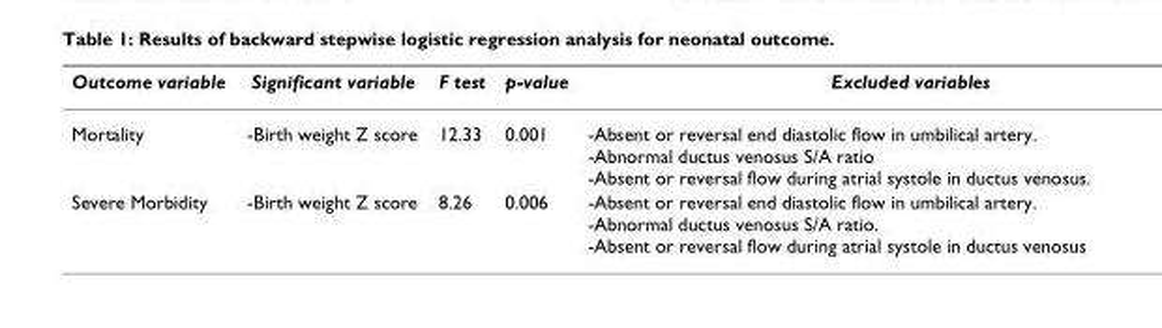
<table><thead><tr><td>Outcome variable</td><td>Significant variable</td><td>F test</td><td>p-value</td><td>Excluded variables</td></tr></thead><tbody><tr><td>Mortality</td><td>-Birth weight Z score</td><td>12.33</td><td>0.001</td><td>-Absent or reversal end diastolic flow in umbilical artery. -Abnormal ductus venosus S/A ratio -Absent or reversal flow during atrial systole in ductus venosus.</td></tr><tr><td>Severe Morbidity</td><td>-Birth weight Z score</td><td>8.26</td><td>0.006</td><td>-Absent or reversal end diastolic flow in umbilical artery. -Abnormal ductus venosus S/A ratio. -Absent or reversal flow during atrial systole in ductus venosus</td></tr></tbody></table>